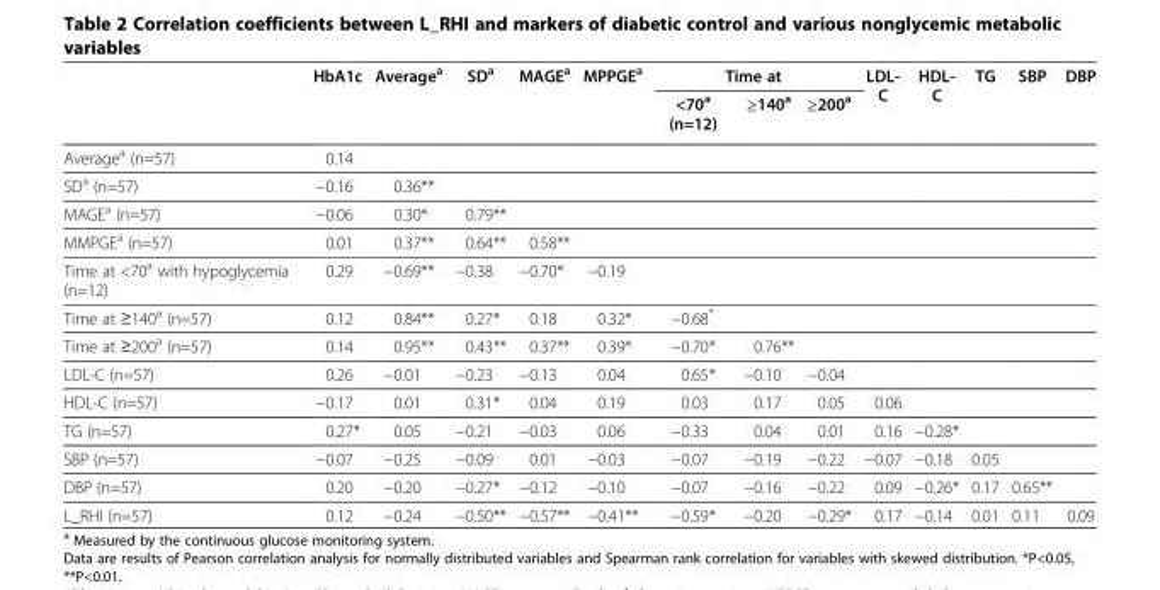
<table><thead><tr><td rowspan="2"></td><td rowspan="2">HbA1c</td><td rowspan="2">Average<sup>a</sup></td><td rowspan="2">SD<sup>a</sup></td><td rowspan="2">MAGE<sup>a</sup></td><td rowspan="2">MPPGE<sup>a</sup></td><td colspan="3">Time at</td><td rowspan="2">LDL- C</td><td rowspan="2">HDL- C</td><td rowspan="2">TG</td><td rowspan="2">SBP</td><td rowspan="2">DBP</td></tr><tr><td>&lt;70<sup>a</sup> (n=12)</td><td>≥140<sup>a</sup></td><td>≥200<sup>a</sup></td></tr></thead><tbody><tr><td>Average<sup>a</sup> (n=57)</td><td>0.14</td><td></td><td></td><td></td><td></td><td></td><td></td><td></td><td></td><td></td><td></td><td></td><td></td></tr><tr><td>SD<sup>a</sup> (n=57)</td><td>−0.16</td><td>0.36**</td><td></td><td></td><td></td><td></td><td></td><td></td><td></td><td></td><td></td><td></td><td></td></tr><tr><td>MAGE<sup>a</sup> (n=57)</td><td>−0.06</td><td>0.30*</td><td>0.79**</td><td></td><td></td><td></td><td></td><td></td><td></td><td></td><td></td><td></td><td></td></tr><tr><td>MMPGE<sup>a</sup> (n=57)</td><td>0.01</td><td>0.37**</td><td>0.64**</td><td>0.58**</td><td></td><td></td><td></td><td></td><td></td><td></td><td></td><td></td><td></td></tr><tr><td>Time at &lt;70<sup>a</sup> with hypoglycemia (n=12)</td><td>0.29</td><td>−0.69**</td><td>−0.38</td><td>−0.70*</td><td>−0.19</td><td></td><td></td><td></td><td></td><td></td><td></td><td></td><td></td></tr><tr><td>Time at ≥140<sup>a</sup> (n=57)</td><td>0.12</td><td>0.84**</td><td>0.27*</td><td>0.18</td><td>0.32*</td><td>−0.68*</td><td></td><td></td><td></td><td></td><td></td><td></td><td></td></tr><tr><td>Time at ≥200<sup>a</sup> (n=57)</td><td>0.14</td><td>0.95**</td><td>0.43**</td><td>0.37**</td><td>0.39*</td><td>−0.70*</td><td>0.76**</td><td></td><td></td><td></td><td></td><td></td><td></td></tr><tr><td>LDL-C (n=57)</td><td>0.26</td><td>−0.01</td><td>−0.23</td><td>−0.13</td><td>0.04</td><td>0.65*</td><td>−0.10</td><td>−0.04</td><td></td><td></td><td></td><td></td><td></td></tr><tr><td>HDL-C (n=57)</td><td>−0.17</td><td>0.01</td><td>0.31*</td><td>0.04</td><td>0.19</td><td>0.03</td><td>0.17</td><td>0.05</td><td>0.06</td><td></td><td></td><td></td><td></td></tr><tr><td>TG (n=57)</td><td>0.27*</td><td>0.05</td><td>−0.21</td><td>−0.03</td><td>0.06</td><td>−0.33</td><td>0.04</td><td>0.01</td><td>0.16</td><td>−0.28*</td><td></td><td></td><td></td></tr><tr><td>SBP (n=57)</td><td>−0.07</td><td>−0.25</td><td>−0.09</td><td>0.01</td><td>−0.03</td><td>−0.07</td><td>−0.19</td><td>−0.22</td><td>−0.07</td><td>−0.18</td><td>0.05</td><td></td><td></td></tr><tr><td>DBP (n=57)</td><td>0.20</td><td>−0.20</td><td>−0.27*</td><td>−0.12</td><td>−0.10</td><td>−0.07</td><td>−0.16</td><td>−0.22</td><td>0.09</td><td>−0.26*</td><td>0.17</td><td>0.65**</td><td></td></tr><tr><td>L_RHI (n=57)</td><td>0.12</td><td>−0.24</td><td>−0.50**</td><td>−0.57**</td><td>−0.41**</td><td>−0.59*</td><td>−0.20</td><td>−0.29*</td><td>0.17</td><td>−0.14</td><td>0.01</td><td>0.11</td><td>0.09</td></tr></tbody></table>